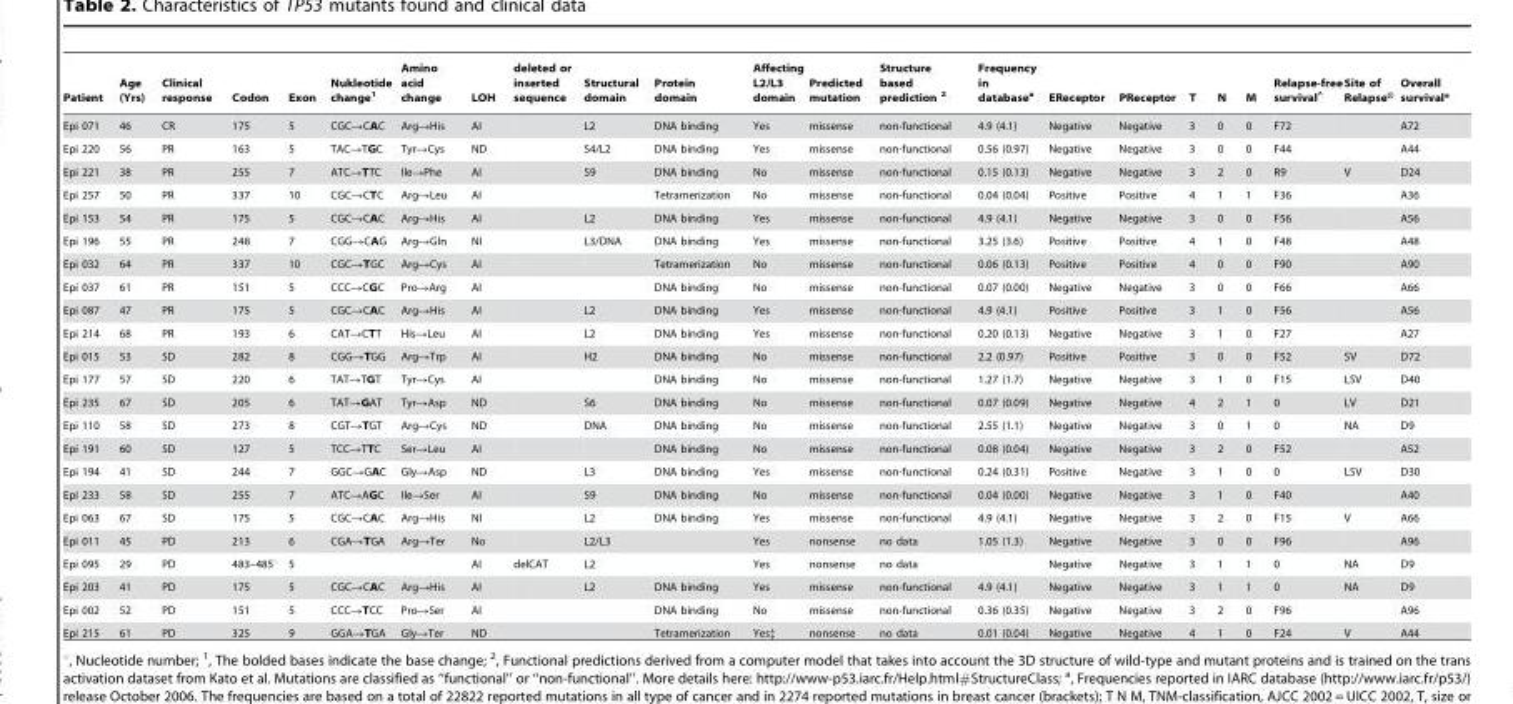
<table><thead><tr><td>Patient</td><td>Age (Yrs)</td><td>Clinical response</td><td>Codon</td><td>Exon</td><td>Nukleotide change<sup>1</sup></td><td>Amino acid change</td><td>LOH</td><td>deleted or inserted sequence</td><td>Structural domain</td><td>Protein domain</td><td>Affecting L2/L3 domain</td><td>Predicted mutation</td><td>Structure based prediction <sup>2</sup></td><td>Frequency in database<sup>a</sup></td><td>EReceptor</td><td>PReceptor</td><td>T</td><td>N</td><td>M</td><td>Relapse-free survival^</td><td>Site of Relapse®</td><td>Overall survival*</td></tr></thead><tbody><tr><td>Epi 071</td><td>46</td><td>CR</td><td>175</td><td>5</td><td>CGC→CAC</td><td>Arg→His</td><td>AI</td><td></td><td>L2</td><td>DNA binding</td><td>Yes</td><td>missense</td><td>non-functional</td><td>4.9 (4.1)</td><td>Negative</td><td>Negative</td><td>3</td><td>0</td><td>0</td><td>F72</td><td></td><td>A72</td></tr><tr><td>Epi 220</td><td>56</td><td>PR</td><td>163</td><td>5</td><td>TAC→TGC</td><td>Tyr→Cys</td><td>ND</td><td></td><td>S4/L2</td><td>DNA binding</td><td>Yes</td><td>missense</td><td>non-functional</td><td>0.56 (0.97)</td><td>Negative</td><td>Negative</td><td>3</td><td>0</td><td>0</td><td>F44</td><td></td><td>A44</td></tr><tr><td>Epi 221</td><td>38</td><td>PR</td><td>255</td><td>7</td><td>ATC→TTC</td><td>Ile→Phe</td><td>AI</td><td></td><td>S9</td><td>DNA binding</td><td>No</td><td>missense</td><td>non-functional</td><td>0.15 (0.13)</td><td>Negative</td><td>Negative</td><td>3</td><td>2</td><td>0</td><td>R9</td><td>V</td><td>D24</td></tr><tr><td>Epi 257</td><td>50</td><td>PR</td><td>337</td><td>10</td><td>CGC→CTC</td><td>Arg→Leu</td><td>AI</td><td></td><td></td><td>Tetramerization</td><td>No</td><td>missense</td><td>non-functional</td><td>0.04 (0.04)</td><td>Positive</td><td>Positive</td><td>4</td><td>1</td><td>1</td><td>F36</td><td></td><td>A36</td></tr><tr><td>Epi 153</td><td>54</td><td>PR</td><td>175</td><td>5</td><td>CGC→CAC</td><td>Arg→His</td><td>AI</td><td></td><td>L2</td><td>DNA binding</td><td>Yes</td><td>missense</td><td>non-functional</td><td>4.9 (4.1)</td><td>Negative</td><td>Negative</td><td>3</td><td>0</td><td>0</td><td>F56</td><td></td><td>A56</td></tr><tr><td>Epi 196</td><td>55</td><td>PR</td><td>248</td><td>7</td><td>CGG→CAG</td><td>Arg→Gln</td><td>NI</td><td></td><td>L3/DNA</td><td>DNA binding</td><td>Yes</td><td>missense</td><td>non-functional</td><td>3.25 (3.6)</td><td>Positive</td><td>Positive</td><td>4</td><td>1</td><td>0</td><td>F48</td><td></td><td>A48</td></tr><tr><td>Epi 032</td><td>64</td><td>PR</td><td>337</td><td>10</td><td>CGC→TGC</td><td>Arg→Cys</td><td>AI</td><td></td><td></td><td>Tetramerization</td><td>No</td><td>missense</td><td>non-functional</td><td>0.06 (0.13)</td><td>Positive</td><td>Positive</td><td>4</td><td>0</td><td>0</td><td>F90</td><td></td><td>A90</td></tr><tr><td>Epi 037</td><td>61</td><td>PR</td><td>151</td><td>5</td><td>CCC→CGC</td><td>Pro→Arg</td><td>AI</td><td></td><td></td><td>DNA binding</td><td>No</td><td>missense</td><td>non-functional</td><td>0.07 (0.00)</td><td>Negative</td><td>Negative</td><td>3</td><td>0</td><td>0</td><td>F66</td><td></td><td>A66</td></tr><tr><td>Epi 087</td><td>47</td><td>PR</td><td>175</td><td>5</td><td>CGC→CAC</td><td>Arg→His</td><td>AI</td><td></td><td>L2</td><td>DNA binding</td><td>Yes</td><td>missense</td><td>non-functional</td><td>4.9 (4.1)</td><td>Positive</td><td>Positive</td><td>3</td><td>1</td><td>0</td><td>F56</td><td></td><td>A56</td></tr><tr><td>Epi 214</td><td>68</td><td>PR</td><td>193</td><td>6</td><td>CAT→CTT</td><td>His→Leu</td><td>AI</td><td></td><td>L2</td><td>DNA binding</td><td>Yes</td><td>missense</td><td>non-functional</td><td>0.20 (0.13)</td><td>Negative</td><td>Negative</td><td>3</td><td>1</td><td>0</td><td>F27</td><td></td><td>A27</td></tr><tr><td>Epi 015</td><td>53</td><td>SD</td><td>282</td><td>8</td><td>CGG→TGG</td><td>Arg→Trp</td><td>AI</td><td></td><td>H2</td><td>DNA binding</td><td>No</td><td>missense</td><td>non-functional</td><td>2.2 (0.97)</td><td>Positive</td><td>Positive</td><td>3</td><td>0</td><td>0</td><td>F52</td><td>SV</td><td>D72</td></tr><tr><td>Epi 177</td><td>57</td><td>SD</td><td>220</td><td>6</td><td>TAT→TGT</td><td>Tyr→Cys</td><td>AI</td><td></td><td></td><td>DNA binding</td><td>No</td><td>missense</td><td>non-functional</td><td>1.27 (1.7)</td><td>Negative</td><td>Negative</td><td>3</td><td>1</td><td>0</td><td>F15</td><td>LSV</td><td>D40</td></tr><tr><td>Epi 235</td><td>67</td><td>SD</td><td>205</td><td>6</td><td>TAT→GAT</td><td>Tyr→Asp</td><td>ND</td><td></td><td>S6</td><td>DNA binding</td><td>No</td><td>missense</td><td>non-functional</td><td>0.07 (0.09)</td><td>Negative</td><td>Negative</td><td>4</td><td>2</td><td>1</td><td>0</td><td>LV</td><td>D21</td></tr><tr><td>Epi 110</td><td>58</td><td>SD</td><td>273</td><td>8</td><td>CGT→TGT</td><td>Arg→Cys</td><td>ND</td><td></td><td>DNA</td><td>DNA binding</td><td>No</td><td>missense</td><td>non-functional</td><td>2.55 (1.1)</td><td>Negative</td><td>Negative</td><td>3</td><td>0</td><td>1</td><td>0</td><td>NA</td><td>D9</td></tr><tr><td>Epi 191</td><td>60</td><td>SD</td><td>127</td><td>5</td><td>TCC→TTC</td><td>Ser→Leu</td><td>AI</td><td></td><td></td><td>DNA binding</td><td>No</td><td>missense</td><td>non-functional</td><td>0.08 (0.04)</td><td>Negative</td><td>Negative</td><td>3</td><td>2</td><td>0</td><td>F52</td><td></td><td>A52</td></tr><tr><td>Epi 194</td><td>41</td><td>SD</td><td>244</td><td>7</td><td>GGC→GAC</td><td>Gly→Asp</td><td>ND</td><td></td><td>L3</td><td>DNA binding</td><td>Yes</td><td>missense</td><td>non-functional</td><td>0.24 (0.31)</td><td>Positive</td><td>Negative</td><td>3</td><td>1</td><td>0</td><td>0</td><td>LSV</td><td>D30</td></tr><tr><td>Epi 233</td><td>58</td><td>SD</td><td>255</td><td>7</td><td>ATC→AGC</td><td>Ile→Ser</td><td>AI</td><td></td><td>S9</td><td>DNA binding</td><td>No</td><td>missense</td><td>non-functional</td><td>0.04 (0.00)</td><td>Negative</td><td>Negative</td><td>3</td><td>1</td><td>0</td><td>F40</td><td></td><td>A40</td></tr><tr><td>Epi 063</td><td>67</td><td>SD</td><td>175</td><td>5</td><td>CGC→CAC</td><td>Arg→His</td><td>NI</td><td></td><td>L2</td><td>DNA binding</td><td>Yes</td><td>missense</td><td>non-functional</td><td>4.9 (4.1)</td><td>Negative</td><td>Negative</td><td>3</td><td>2</td><td>0</td><td>F15</td><td>V</td><td>A66</td></tr><tr><td>Epi 011</td><td>45</td><td>PD</td><td>213</td><td>6</td><td>CGA→TGA</td><td>Arg→Ter</td><td>No</td><td></td><td>L2/L3</td><td></td><td>Yes</td><td>nonsense</td><td>no data</td><td>1.05 (1.3)</td><td>Negative</td><td>Negative</td><td>3</td><td>0</td><td>0</td><td>F96</td><td></td><td>A96</td></tr><tr><td>Epi 095</td><td>29</td><td>PD</td><td>483–485°</td><td>5</td><td></td><td></td><td>AI</td><td>delCAT</td><td>L2</td><td></td><td>Yes</td><td>nonsense</td><td>no data</td><td></td><td>Negative</td><td>Negative</td><td>3</td><td>1</td><td>1</td><td>0</td><td>NA</td><td>D9</td></tr><tr><td>Epi 203</td><td>41</td><td>PD</td><td>175</td><td>5</td><td>CGC→CAC</td><td>Arg→His</td><td>AI</td><td></td><td>L2</td><td>DNA binding</td><td>Yes</td><td>missense</td><td>non-functional</td><td>4.9 (4.1)</td><td>Negative</td><td>Negative</td><td>3</td><td>1</td><td>1</td><td>0</td><td>NA</td><td>D9</td></tr><tr><td>Epi 002</td><td>52</td><td>PD</td><td>151</td><td>5</td><td>CCC→TCC</td><td>Pro→Ser</td><td>AI</td><td></td><td></td><td>DNA binding</td><td>No</td><td>missense</td><td>non-functional</td><td>0.36 (0.35)</td><td>Negative</td><td>Negative</td><td>3</td><td>2</td><td>0</td><td>F96</td><td></td><td>A96</td></tr><tr><td>Epi 215</td><td>61</td><td>PD</td><td>325</td><td>9</td><td>GGA→TGA</td><td>Gly→Ter</td><td>ND</td><td></td><td></td><td>Tetramerization</td><td>Yes‡</td><td>nonsense</td><td>no data</td><td>0.01 (0.04)</td><td>Negative</td><td>Negative</td><td>4</td><td>1</td><td>0</td><td>F24</td><td>V</td><td>A44</td></tr></tbody></table>